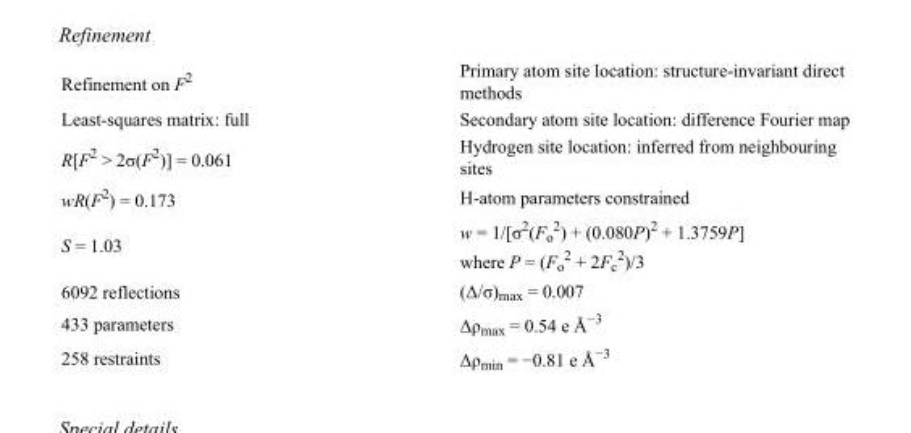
<table><tbody><tr><td>Refinement on F<sup>2</sup></td><td>Primary atom site location: structure-invariant direct methods</td></tr><tr><td>Least-squares matrix: full</td><td>Secondary atom site location: difference Fourier map</td></tr><tr><td>R[F<sup>2</sup> &gt; 2σ(F<sup>2</sup>)] = 0.061</td><td>Hydrogen site location: inferred from neighbouring sites</td></tr><tr><td>wR(F<sup>2</sup>) = 0.173</td><td>H-atom parameters constrained</td></tr><tr><td>S = 1.03</td><td>w = 1/[σ<sup>2</sup>(F<sub>o</sub> <sup>2</sup>) + (0.080P)<sup>2</sup> + 1.3759P] where P = (F<sub>o</sub> <sup>2</sup> + 2F<sub>c</sub> <sup>2</sup>)/3</td></tr><tr><td>6092 reflections</td><td>(Δ/σ)<sub>max</sub> = 0.007</td></tr><tr><td>433 parameters</td><td>Δρ<sub>max</sub> = 0.54 e Å<sup>−3</sup></td></tr><tr><td>258 restraints</td><td>Δρ<sub>min</sub> = −0.81 e Å<sup>−3</sup></td></tr></tbody></table>